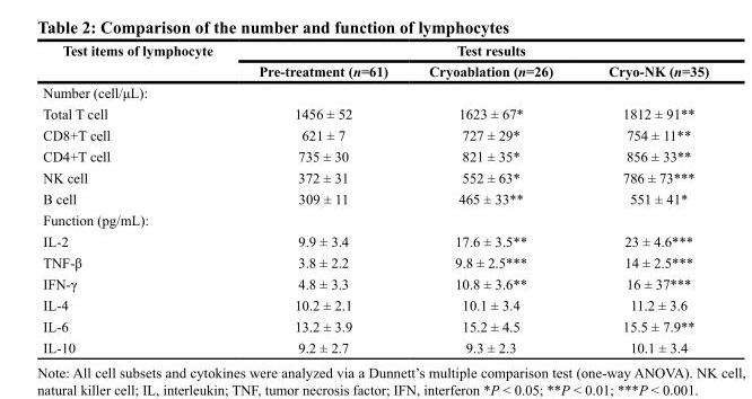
<table><thead><tr><td rowspan="2">Test items of lymphocyte</td><td colspan="3">Test results</td></tr><tr><td>Pre-treatment (n=61)</td><td>Cryoablation (n=26)</td><td>Cryo-NK (n=35)</td></tr></thead><tbody><tr><td colspan="4">Number (cell/μL):</td></tr><tr><td>Total T cell</td><td>1456 ± 52</td><td>1623 ± 67*</td><td>1812 ± 91**</td></tr><tr><td>CD8+T cell</td><td>621 ± 7</td><td>727 ± 29*</td><td>754 ± 11**</td></tr><tr><td>CD4+T cell</td><td>735 ± 30</td><td>821 ± 35*</td><td>856 ± 33**</td></tr><tr><td>NK cell</td><td>372 ± 31</td><td>552 ± 63*</td><td>786 ± 73***</td></tr><tr><td>B cell</td><td>309 ± 11</td><td>465 ± 33**</td><td>551 ± 41*</td></tr><tr><td colspan="4">Function (pg/mL):</td></tr><tr><td>IL-2</td><td>9.9 ± 3.4</td><td>17.6 ± 3.5**</td><td>23 ± 4.6***</td></tr><tr><td>TNF-β</td><td>3.8 ± 2.2</td><td>9.8 ± 2.5***</td><td>14 ± 2.5***</td></tr><tr><td>IFN-γ</td><td>4.8 ± 3.3</td><td>10.8 ± 3.6**</td><td>16 ± 37***</td></tr><tr><td>IL-4</td><td>10.2 ± 2.1</td><td>10.1 ± 3.4</td><td>11.2 ± 3.6</td></tr><tr><td>IL-6</td><td>13.2 ± 3.9</td><td>15.2 ± 4.5</td><td>15.5 ± 7.9**</td></tr><tr><td>IL-10</td><td>9.2 ± 2.7</td><td>9.3 ± 2.3</td><td>10.1 ± 3.4</td></tr></tbody></table>